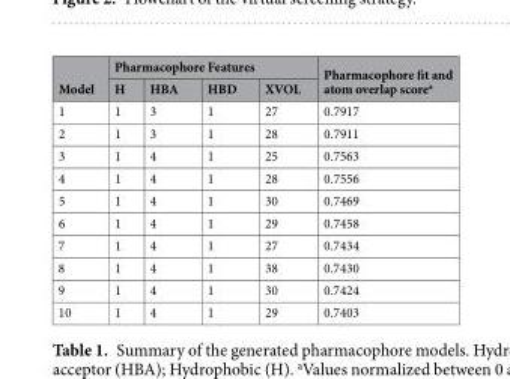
<table><thead><tr><td rowspan="2">Model</td><td colspan="4">Pharmacophore Features</td><td rowspan="2">Pharmacophore fit and atom overlap score<sup>a</sup></td></tr><tr><td>H</td><td>HBA</td><td>HBD</td><td>XVOL</td></tr></thead><tbody><tr><td>1</td><td>1</td><td>3</td><td>1</td><td>27</td><td>0.7917</td></tr><tr><td>2</td><td>1</td><td>3</td><td>1</td><td>28</td><td>0.7911</td></tr><tr><td>3</td><td>1</td><td>4</td><td>1</td><td>25</td><td>0.7563</td></tr><tr><td>4</td><td>1</td><td>4</td><td>1</td><td>28</td><td>0.7556</td></tr><tr><td>5</td><td>1</td><td>4</td><td>1</td><td>30</td><td>0.7469</td></tr><tr><td>6</td><td>1</td><td>4</td><td>1</td><td>29</td><td>0.7458</td></tr><tr><td>7</td><td>1</td><td>4</td><td>1</td><td>27</td><td>0.7434</td></tr><tr><td>8</td><td>1</td><td>4</td><td>1</td><td>38</td><td>0.7430</td></tr><tr><td>9</td><td>1</td><td>4</td><td>1</td><td>30</td><td>0.7424</td></tr><tr><td>10</td><td>1</td><td>4</td><td>1</td><td>29</td><td>0.7403</td></tr></tbody></table>